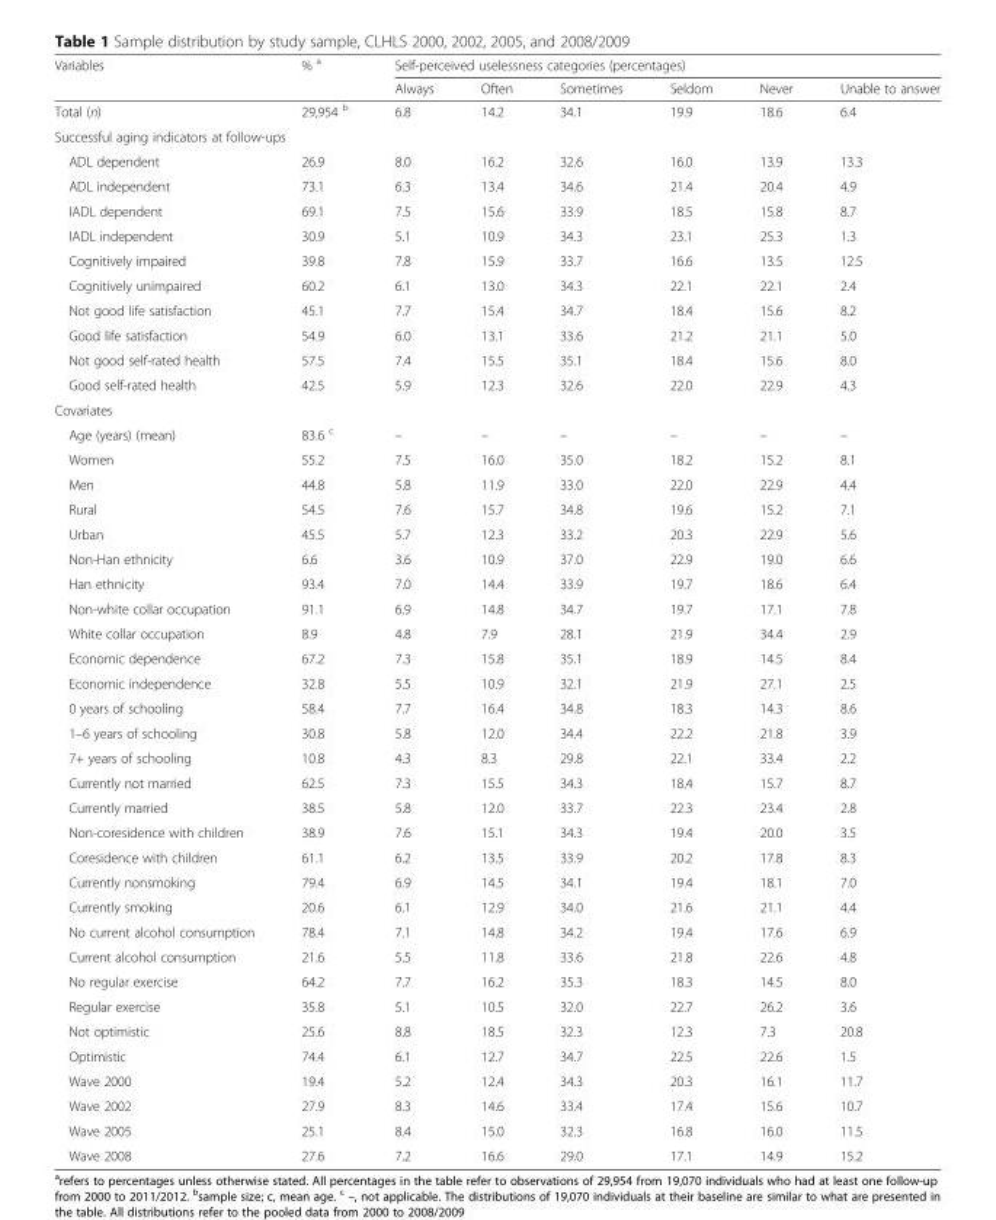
<table><thead><tr><td rowspan="2">Variables</td><td rowspan="2">% <sup>a</sup></td><td colspan="6">Self-perceived uselessness categories (percentages)</td></tr><tr><td>Always</td><td>Often</td><td>Sometimes</td><td>Seldom</td><td>Never</td><td>Unable to answer</td></tr></thead><tbody><tr><td>Total (n)</td><td>29,954 <sup>b</sup></td><td>6.8</td><td>14.2</td><td>34.1</td><td>19.9</td><td>18.6</td><td>6.4</td></tr><tr><td colspan="8">Successful aging indicators at follow-ups</td></tr><tr><td>ADL dependent</td><td>26.9</td><td>8.0</td><td>16.2</td><td>32.6</td><td>16.0</td><td>13.9</td><td>13.3</td></tr><tr><td>ADL independent</td><td>73.1</td><td>6.3</td><td>13.4</td><td>34.6</td><td>21.4</td><td>20.4</td><td>4.9</td></tr><tr><td>IADL dependent</td><td>69.1</td><td>7.5</td><td>15.6</td><td>33.9</td><td>18.5</td><td>15.8</td><td>8.7</td></tr><tr><td>IADL independent</td><td>30.9</td><td>5.1</td><td>10.9</td><td>34.3</td><td>23.1</td><td>25.3</td><td>1.3</td></tr><tr><td>Cognitively impaired</td><td>39.8</td><td>7.8</td><td>15.9</td><td>33.7</td><td>16.6</td><td>13.5</td><td>12.5</td></tr><tr><td>Cognitively unimpaired</td><td>60.2</td><td>6.1</td><td>13.0</td><td>34.3</td><td>22.1</td><td>22.1</td><td>2.4</td></tr><tr><td>Not good life satisfaction</td><td>45.1</td><td>7.7</td><td>15.4</td><td>34.7</td><td>18.4</td><td>15.6</td><td>8.2</td></tr><tr><td>Good life satisfaction</td><td>54.9</td><td>6.0</td><td>13.1</td><td>33.6</td><td>21.2</td><td>21.1</td><td>5.0</td></tr><tr><td>Not good self-rated health</td><td>57.5</td><td>7.4</td><td>15.5</td><td>35.1</td><td>18.4</td><td>15.6</td><td>8.0</td></tr><tr><td>Good self-rated health</td><td>42.5</td><td>5.9</td><td>12.3</td><td>32.6</td><td>22.0</td><td>22.9</td><td>4.3</td></tr><tr><td colspan="8">Covariates</td></tr><tr><td>Age (years) (mean)</td><td>83.6 <sup>c</sup></td><td>–</td><td>–</td><td>–</td><td>–</td><td>–</td><td>–</td></tr><tr><td>Women</td><td>55.2</td><td>7.5</td><td>16.0</td><td>35.0</td><td>18.2</td><td>15.2</td><td>8.1</td></tr><tr><td>Men</td><td>44.8</td><td>5.8</td><td>11.9</td><td>33.0</td><td>22.0</td><td>22.9</td><td>4.4</td></tr><tr><td>Rural</td><td>54.5</td><td>7.6</td><td>15.7</td><td>34.8</td><td>19.6</td><td>15.2</td><td>7.1</td></tr><tr><td>Urban</td><td>45.5</td><td>5.7</td><td>12.3</td><td>33.2</td><td>20.3</td><td>22.9</td><td>5.6</td></tr><tr><td>Non-Han ethnicity</td><td>6.6</td><td>3.6</td><td>10.9</td><td>37.0</td><td>22.9</td><td>19.0</td><td>6.6</td></tr><tr><td>Han ethnicity</td><td>93.4</td><td>7.0</td><td>14.4</td><td>33.9</td><td>19.7</td><td>18.6</td><td>6.4</td></tr><tr><td>Non-white collar occupation</td><td>91.1</td><td>6.9</td><td>14.8</td><td>34.7</td><td>19.7</td><td>17.1</td><td>7.8</td></tr><tr><td>White collar occupation</td><td>8.9</td><td>4.8</td><td>7.9</td><td>28.1</td><td>21.9</td><td>34.4</td><td>2.9</td></tr><tr><td>Economic dependence</td><td>67.2</td><td>7.3</td><td>15.8</td><td>35.1</td><td>18.9</td><td>14.5</td><td>8.4</td></tr><tr><td>Economic independence</td><td>32.8</td><td>5.5</td><td>10.9</td><td>32.1</td><td>21.9</td><td>27.1</td><td>2.5</td></tr><tr><td>0 years of schooling</td><td>58.4</td><td>7.7</td><td>16.4</td><td>34.8</td><td>18.3</td><td>14.3</td><td>8.6</td></tr><tr><td>1–6 years of schooling</td><td>30.8</td><td>5.8</td><td>12.0</td><td>34.4</td><td>22.2</td><td>21.8</td><td>3.9</td></tr><tr><td>7+ years of schooling</td><td>10.8</td><td>4.3</td><td>8.3</td><td>29.8</td><td>22.1</td><td>33.4</td><td>2.2</td></tr><tr><td>Currently not married</td><td>62.5</td><td>7.3</td><td>15.5</td><td>34.3</td><td>18.4</td><td>15.7</td><td>8.7</td></tr><tr><td>Currently married</td><td>38.5</td><td>5.8</td><td>12.0</td><td>33.7</td><td>22.3</td><td>23.4</td><td>2.8</td></tr><tr><td>Non-coresidence with children</td><td>38.9</td><td>7.6</td><td>15.1</td><td>34.3</td><td>19.4</td><td>20.0</td><td>3.5</td></tr><tr><td>Coresidence with children</td><td>61.1</td><td>6.2</td><td>13.5</td><td>33.9</td><td>20.2</td><td>17.8</td><td>8.3</td></tr><tr><td>Currently nonsmoking</td><td>79.4</td><td>6.9</td><td>14.5</td><td>34.1</td><td>19.4</td><td>18.1</td><td>7.0</td></tr><tr><td>Currently smoking</td><td>20.6</td><td>6.1</td><td>12.9</td><td>34.0</td><td>21.6</td><td>21.1</td><td>4.4</td></tr><tr><td>No current alcohol consumption</td><td>78.4</td><td>7.1</td><td>14.8</td><td>34.2</td><td>19.4</td><td>17.6</td><td>6.9</td></tr><tr><td>Current alcohol consumption</td><td>21.6</td><td>5.5</td><td>11.8</td><td>33.6</td><td>21.8</td><td>22.6</td><td>4.8</td></tr><tr><td>No regular exercise</td><td>64.2</td><td>7.7</td><td>16.2</td><td>35.3</td><td>18.3</td><td>14.5</td><td>8.0</td></tr><tr><td>Regular exercise</td><td>35.8</td><td>5.1</td><td>10.5</td><td>32.0</td><td>22.7</td><td>26.2</td><td>3.6</td></tr><tr><td>Not optimistic</td><td>25.6</td><td>8.8</td><td>18.5</td><td>32.3</td><td>12.3</td><td>7.3</td><td>20.8</td></tr><tr><td>Optimistic</td><td>74.4</td><td>6.1</td><td>12.7</td><td>34.7</td><td>22.5</td><td>22.6</td><td>1.5</td></tr><tr><td>Wave 2000</td><td>19.4</td><td>5.2</td><td>12.4</td><td>34.3</td><td>20.3</td><td>16.1</td><td>11.7</td></tr><tr><td>Wave 2002</td><td>27.9</td><td>8.3</td><td>14.6</td><td>33.4</td><td>17.4</td><td>15.6</td><td>10.7</td></tr><tr><td>Wave 2005</td><td>25.1</td><td>8.4</td><td>15.0</td><td>32.3</td><td>16.8</td><td>16.0</td><td>11.5</td></tr><tr><td>Wave 2008</td><td>27.6</td><td>7.2</td><td>16.6</td><td>29.0</td><td>17.1</td><td>14.9</td><td>15.2</td></tr></tbody></table>